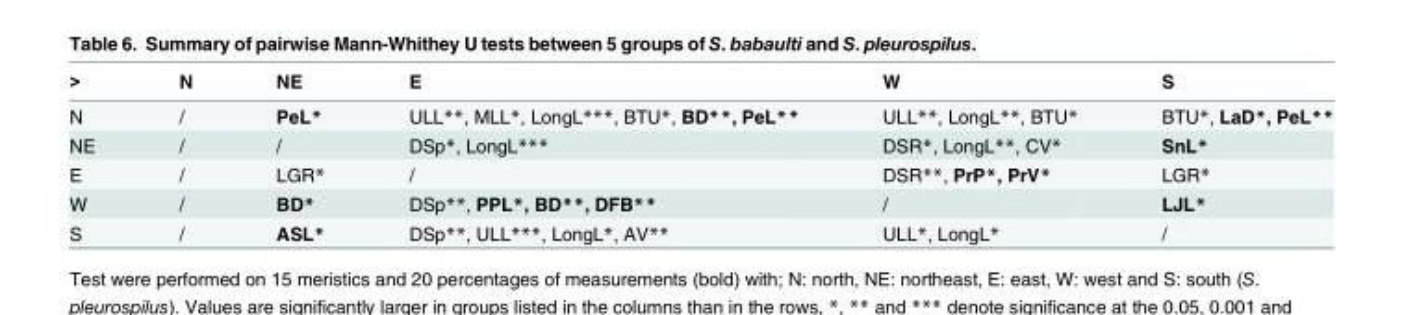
<table><thead><tr><td>&gt;</td><td>N</td><td>NE</td><td>E</td><td>W</td><td>S</td></tr></thead><tbody><tr><td>N</td><td>/</td><td>PeL*</td><td>ULL**, MLL*, LongL***, BTU*, BD**, PeL**</td><td>ULL**, LongL**, BTU*</td><td>BTU*, LaD*, PeL**</td></tr><tr><td>NE</td><td>/</td><td>/</td><td>DSp*, LongL***</td><td>DSR*, LongL**, CV*</td><td>SnL*</td></tr><tr><td>E</td><td>/</td><td>LGR*</td><td>/</td><td>DSR**, PrP*, PrV*</td><td>LGR*</td></tr><tr><td>W</td><td>/</td><td>BD*</td><td>DSp**, PPL*, BD**, DFB**</td><td>/</td><td>LJL*</td></tr><tr><td>S</td><td>/</td><td>ASL*</td><td>DSp**, ULL***, LongL*, AV**</td><td>ULL*, LongL*</td><td>/</td></tr></tbody></table>